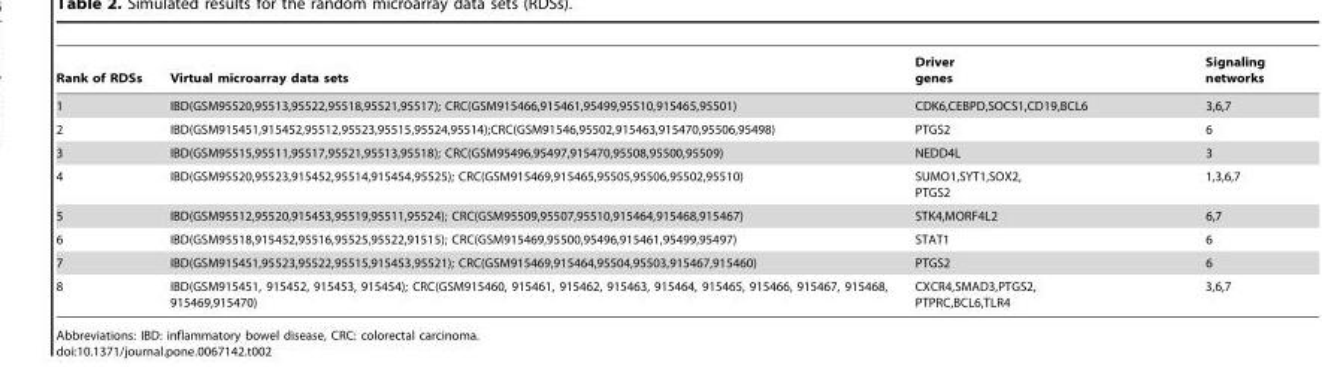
<table><thead><tr><td>Rank of RDSs</td><td>Virtual microarray data sets</td><td>Driver genes</td><td>Signaling networks</td></tr></thead><tbody><tr><td>1</td><td>IBD(GSM95520,95513,95522,95518,95521,95517); CRC(GSM915466,915461,95499,95510,915465,95501)</td><td>CDK6,CEBPD,SOCS1,CD19,BCL6</td><td>3,6,7</td></tr><tr><td>2</td><td>IBD(GSM915451,915452,95512,95523,95515,95524,95514);CRC(GSM91546,95502,915463,915470,95506,95498)</td><td>PTGS2</td><td>6</td></tr><tr><td>3</td><td>IBD(GSM95515,95511,95517,95521,95513,95518); CRC(GSM95496,95497,915470,95508,95500,95509)</td><td>NEDD4L</td><td>3</td></tr><tr><td>4</td><td>IBD(GSM95520,95523,915452,95514,915454,95525); CRC(GSM915469,915465,95505,95506,95502,95510)</td><td>SUMO1,SYT1,SOX2, PTGS2</td><td>1,3,6,7</td></tr><tr><td>5</td><td>IBD(GSM95512,95520,915453,95519,95511,95524); CRC(GSM95509,95507,95510,915464,915468,915467)</td><td>STK4,MORF4L2</td><td>6,7</td></tr><tr><td>6</td><td>IBD(GSM95518,915452,95516,95525,95522,91515); CRC(GSM915469,95500,95496,915461,95499,95497)</td><td>STAT1</td><td>6</td></tr><tr><td>7</td><td>IBD(GSM915451,95523,95522,95515,915453,95521); CRC(GSM915469,915464,95504,95503,915467,915460)</td><td>PTGS2</td><td>6</td></tr><tr><td>8</td><td>IBD(GSM915451, 915452, 915453, 915454); CRC(GSM915460, 915461, 915462, 915463, 915464, 915465, 915466, 915467, 915468, 915469,915470)</td><td>CXCR4,SMAD3,PTGS2, PTPRC,BCL6,TLR4</td><td>3,6,7</td></tr></tbody></table>